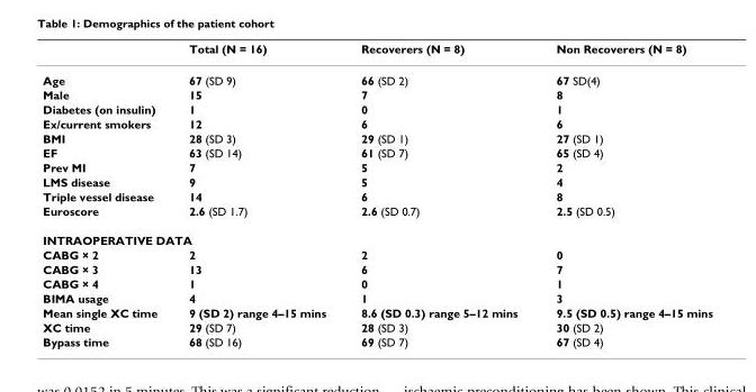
<table><thead><tr><td></td><td>Total (N = 16)</td><td>Recoverers (N = 8)</td><td>Non Recoverers (N = 8)</td></tr></thead><tbody><tr><td>Age</td><td>67 (SD 9)</td><td>66 (SD 2)</td><td>67 SD(4)</td></tr><tr><td>Male</td><td>15</td><td>7</td><td>8</td></tr><tr><td>Diabetes (on insulin)</td><td>1</td><td>0</td><td>1</td></tr><tr><td>Ex/current smokers</td><td>12</td><td>6</td><td>6</td></tr><tr><td>BMI</td><td>28 (SD 3)</td><td>29 (SD 1)</td><td>27 (SD 1)</td></tr><tr><td>EF</td><td>63 (SD 14)</td><td>61 (SD 7)</td><td>65 (SD 4)</td></tr><tr><td>Prev MI</td><td>7</td><td>5</td><td>2</td></tr><tr><td>LMS disease</td><td>9</td><td>5</td><td>4</td></tr><tr><td>Triple vessel disease</td><td>14</td><td>6</td><td>8</td></tr><tr><td>Euroscore</td><td>2.6 (SD 1.7)</td><td>2.6 (SD 0.7)</td><td>2.5 (SD 0.5)</td></tr><tr><td colspan="4">INTRAOPERATIVE DATA</td></tr><tr><td>CABG × 2</td><td>2</td><td>2</td><td>0</td></tr><tr><td>CABG × 3</td><td>13</td><td>6</td><td>7</td></tr><tr><td>CABG × 4</td><td>1</td><td>0</td><td>1</td></tr><tr><td>BIMA usage</td><td>4</td><td>1</td><td>3</td></tr><tr><td>Mean single XC time</td><td>9 (SD 2) range 4–15 mins</td><td>8.6 (SD 0.3) range 5–12 mins</td><td>9.5 (SD 0.5) range 4–15 mins</td></tr><tr><td>XC time</td><td>29 (SD 7)</td><td>28 (SD 3)</td><td>30 (SD 2)</td></tr><tr><td>Bypass time</td><td>68 (SD 16)</td><td>69 (SD 7)</td><td>67 (SD 4)</td></tr></tbody></table>